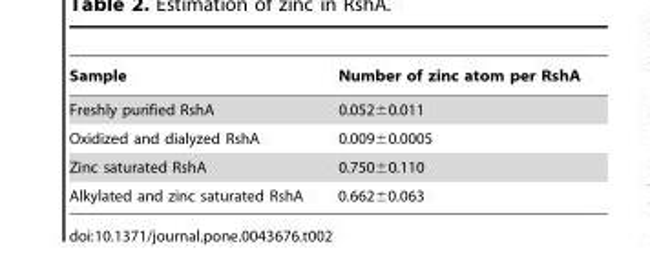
<table><thead><tr><td>Sample</td><td>Number of zinc atom per RshA</td></tr></thead><tbody><tr><td>Freshly purified RshA</td><td>0.052±0.011</td></tr><tr><td>Oxidized and dialyzed RshA</td><td>0.009±0.0005</td></tr><tr><td>Zinc saturated RshA</td><td>0.750±0.110</td></tr><tr><td>Alkylated and zinc saturated RshA</td><td>0.662±0.063</td></tr></tbody></table>